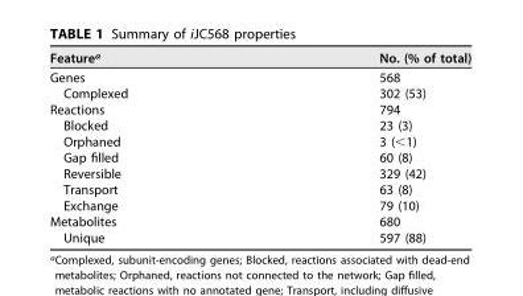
<table><thead><tr><td>Feature<sup>a</sup></td><td>No. (% of total)</td></tr></thead><tbody><tr><td>Genes</td><td>568</td></tr><tr><td>Complexed</td><td>302 (53)</td></tr><tr><td>Reactions</td><td>794</td></tr><tr><td>Blocked</td><td>23 (3)</td></tr><tr><td>Orphaned</td><td>3 (&lt;1)</td></tr><tr><td>Gap filled</td><td>60 (8)</td></tr><tr><td>Reversible</td><td>329 (42)</td></tr><tr><td>Transport</td><td>63 (8)</td></tr><tr><td>Exchange</td><td>79 (10)</td></tr><tr><td>Metabolites</td><td>680</td></tr><tr><td>Unique</td><td>597 (88)</td></tr></tbody></table>